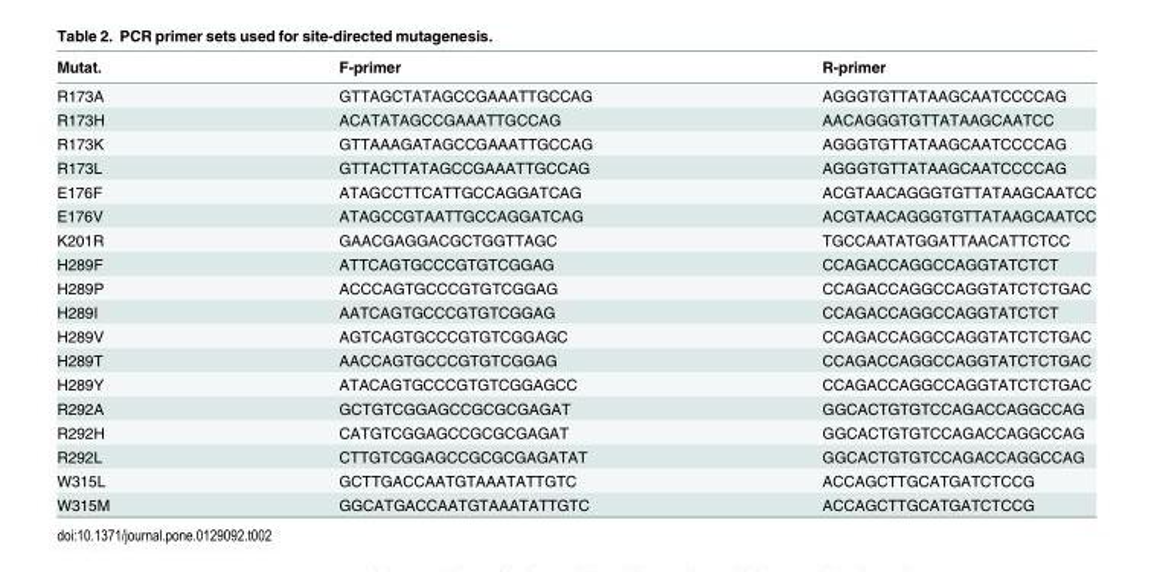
<table><thead><tr><td>Mutat.</td><td>F-primer</td><td>R-primer</td></tr></thead><tbody><tr><td>R173A</td><td>GTTAGCTATAGCCGAAATTGCCAG</td><td>AGGGTGTTATAAGCAATCCCCAG</td></tr><tr><td>R173H</td><td>ACATATAGCCGAAATTGCCAG</td><td>AACAGGGTGTTATAAGCAATCC</td></tr><tr><td>R173K</td><td>GTTAAAGATAGCCGAAATTGCCAG</td><td>AGGGTGTTATAAGCAATCCCCAG</td></tr><tr><td>R173L</td><td>GTTACTTATAGCCGAAATTGCCAG</td><td>AGGGTGTTATAAGCAATCCCCAG</td></tr><tr><td>E176F</td><td>ATAGCCTTCATTGCCAGGATCAG</td><td>ACGTAACAGGGTGTTATAAGCAATCC</td></tr><tr><td>E176V</td><td>ATAGCCGTAATTGCCAGGATCAG</td><td>ACGTAACAGGGTGTTATAAGCAATCC</td></tr><tr><td>K201R</td><td>GAACGAGGACGCTGGTTAGC</td><td>TGCCAATATGGATTAACATTCTCC</td></tr><tr><td>H289F</td><td>ATTCAGTGCCCGTGTCGGAG</td><td>CCAGACCAGGCCAGGTATCTCT</td></tr><tr><td>H289P</td><td>ACCCAGTGCCCGTGTCGGAG</td><td>CCAGACCAGGCCAGGTATCTCTGAC</td></tr><tr><td>H289I</td><td>AATCAGTGCCCGTGTCGGAG</td><td>CCAGACCAGGCCAGGTATCTCT</td></tr><tr><td>H289V</td><td>AGTCAGTGCCCGTGTCGGAGC</td><td>CCAGACCAGGCCAGGTATCTCTGAC</td></tr><tr><td>H289T</td><td>AACCAGTGCCCGTGTCGGAG</td><td>CCAGACCAGGCCAGGTATCTCTGAC</td></tr><tr><td>H289Y</td><td>ATACAGTGCCCGTGTCGGAGCC</td><td>CCAGACCAGGCCAGGTATCTCTGAC</td></tr><tr><td>R292A</td><td>GCTGTCGGAGCCGCGCGAGAT</td><td>GGCACTGTGTCCAGACCAGGCCAG</td></tr><tr><td>R292H</td><td>CATGTCGGAGCCGCGCGAGAT</td><td>GGCACTGTGTCCAGACCAGGCCAG</td></tr><tr><td>R292L</td><td>CTTGTCGGAGCCGCGCGAGATAT</td><td>GGCACTGTGTCCAGACCAGGCCAG</td></tr><tr><td>W315L</td><td>GCTTGACCAATGTAAATATTGTC</td><td>ACCAGCTTGCATGATCTCCG</td></tr><tr><td>W315M</td><td>GGCATGACCAATGTAAATATTGTC</td><td>ACCAGCTTGCATGATCTCCG</td></tr></tbody></table>